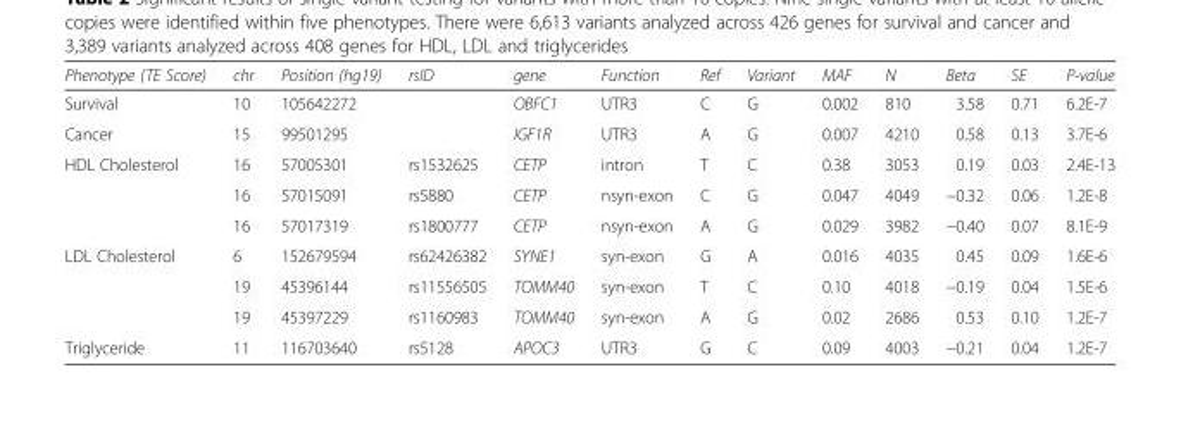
<table><thead><tr><td>Phenotype (TE Score)</td><td>chr</td><td>Position (hg19)</td><td>rsID</td><td>gene</td><td>Function</td><td>Ref</td><td>Variant</td><td>MAF</td><td>N</td><td>Beta</td><td>SE</td><td>P-value</td></tr></thead><tbody><tr><td>Survival</td><td>10</td><td>105642272</td><td></td><td>OBFC1</td><td>UTR3</td><td>C</td><td>G</td><td>0.002</td><td>810</td><td>3.58</td><td>0.71</td><td>6.2E-7</td></tr><tr><td>Cancer</td><td>15</td><td>99501295</td><td></td><td>IGF1R</td><td>UTR3</td><td>A</td><td>G</td><td>0.007</td><td>4210</td><td>0.58</td><td>0.13</td><td>3.7E-6</td></tr><tr><td rowspan="3">HDL Cholesterol</td><td>16</td><td>57005301</td><td>rs1532625</td><td>CETP</td><td>intron</td><td>T</td><td>C</td><td>0.38</td><td>3053</td><td>0.19</td><td>0.03</td><td>2.4E-13</td></tr><tr><td>16</td><td>57015091</td><td>rs5880</td><td>CETP</td><td>nsyn-exon</td><td>C</td><td>G</td><td>0.047</td><td>4049</td><td>−0.32</td><td>0.06</td><td>1.2E-8</td></tr><tr><td>16</td><td>57017319</td><td>rs1800777</td><td>CETP</td><td>nsyn-exon</td><td>A</td><td>G</td><td>0.029</td><td>3982</td><td>−0.40</td><td>0.07</td><td>8.1E-9</td></tr><tr><td rowspan="3">LDL Cholesterol</td><td>6</td><td>152679594</td><td>rs62426382</td><td>SYNE1</td><td>syn-exon</td><td>G</td><td>A</td><td>0.016</td><td>4035</td><td>0.45</td><td>0.09</td><td>1.6E-6</td></tr><tr><td>19</td><td>45396144</td><td>rs11556505</td><td>TOMM40</td><td>syn-exon</td><td>T</td><td>C</td><td>0.10</td><td>4018</td><td>−0.19</td><td>0.04</td><td>1.5E-6</td></tr><tr><td>19</td><td>45397229</td><td>rs1160983</td><td>TOMM40</td><td>syn-exon</td><td>A</td><td>G</td><td>0.02</td><td>2686</td><td>0.53</td><td>0.10</td><td>1.2E-7</td></tr><tr><td>Triglyceride</td><td>11</td><td>116703640</td><td>rs5128</td><td>APOC3</td><td>UTR3</td><td>G</td><td>C</td><td>0.09</td><td>4003</td><td>−0.21</td><td>0.04</td><td>1.2E-7</td></tr></tbody></table>